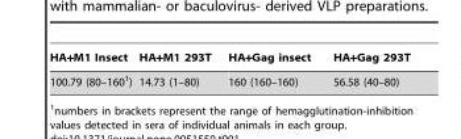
<table><thead><tr><td>HA+M1 Insect</td><td>HA+M1 293T</td><td>HA+Gag insect</td><td>HA+Gag 293T</td></tr></thead><tbody><tr><td>100.79 (80–160<sup>1</sup>)</td><td>14.73 (1–80)</td><td>160 (160–160)</td><td>56.58 (40–80)</td></tr></tbody></table>